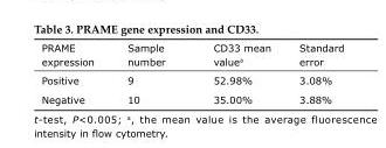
<table><thead><tr><td>PRAME expression</td><td>Sample number</td><td>CD33 mean value<sup>a</sup></td><td>Standard error</td></tr></thead><tbody><tr><td>Positive</td><td>9</td><td>52.98%</td><td>3.08%</td></tr><tr><td>Negative</td><td>10</td><td>35.00%</td><td>3.88%</td></tr></tbody></table>